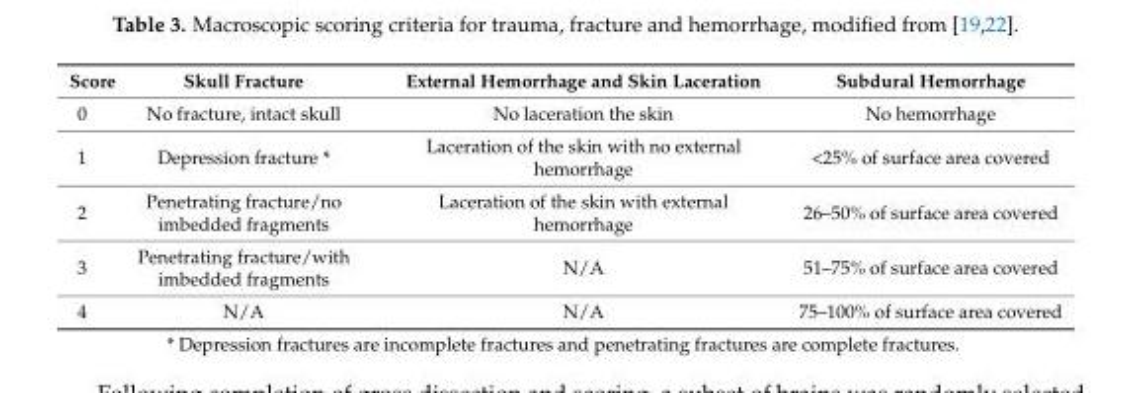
<table><thead><tr><td>Score</td><td>Skull Fracture</td><td>External Hemorrhage and Skin Laceration</td><td>Subdural Hemorrhage</td></tr></thead><tbody><tr><td>0</td><td>No fracture, intact skull</td><td>No laceration the skin</td><td>No hemorrhage</td></tr><tr><td>1</td><td>Depression fracture *</td><td>Laceration of the skin with no external hemorrhage</td><td>&lt;25% of surface area covered</td></tr><tr><td>2</td><td>Penetrating fracture/no imbedded fragments</td><td>Laceration of the skin with external hemorrhage</td><td>26–50% of surface area covered</td></tr><tr><td>3</td><td>Penetrating fracture/with imbedded fragments</td><td>N/A</td><td>51–75% of surface area covered</td></tr><tr><td>4</td><td>N/A</td><td>N/A</td><td>75–100% of surface area covered</td></tr></tbody></table>